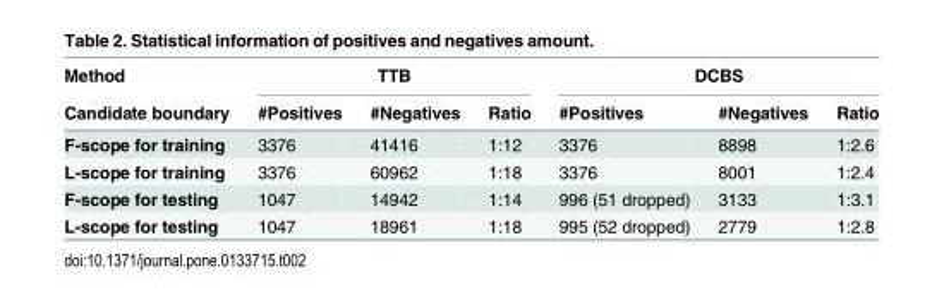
<table><thead><tr><td rowspan="2">Method Candidate boundary</td><td colspan="3">TTB</td><td colspan="3">DCBS</td></tr><tr><td>#Positives</td><td>#Negatives</td><td>Ratio</td><td>#Positives</td><td>#Negatives</td><td>Ratio</td></tr></thead><tbody><tr><td>F-scope for training</td><td>3376</td><td>41416</td><td>1:12</td><td>3376</td><td>8898</td><td>1:2.6</td></tr><tr><td>L-scope for training</td><td>3376</td><td>60962</td><td>1:18</td><td>3376</td><td>8001</td><td>1:2.4</td></tr><tr><td>F-scope for testing</td><td>1047</td><td>14942</td><td>1:14</td><td>996 (51 dropped)</td><td>3133</td><td>1:3.1</td></tr><tr><td>L-scope for testing</td><td>1047</td><td>18961</td><td>1:18</td><td>995 (52 dropped)</td><td>2779</td><td>1:2.8</td></tr></tbody></table>